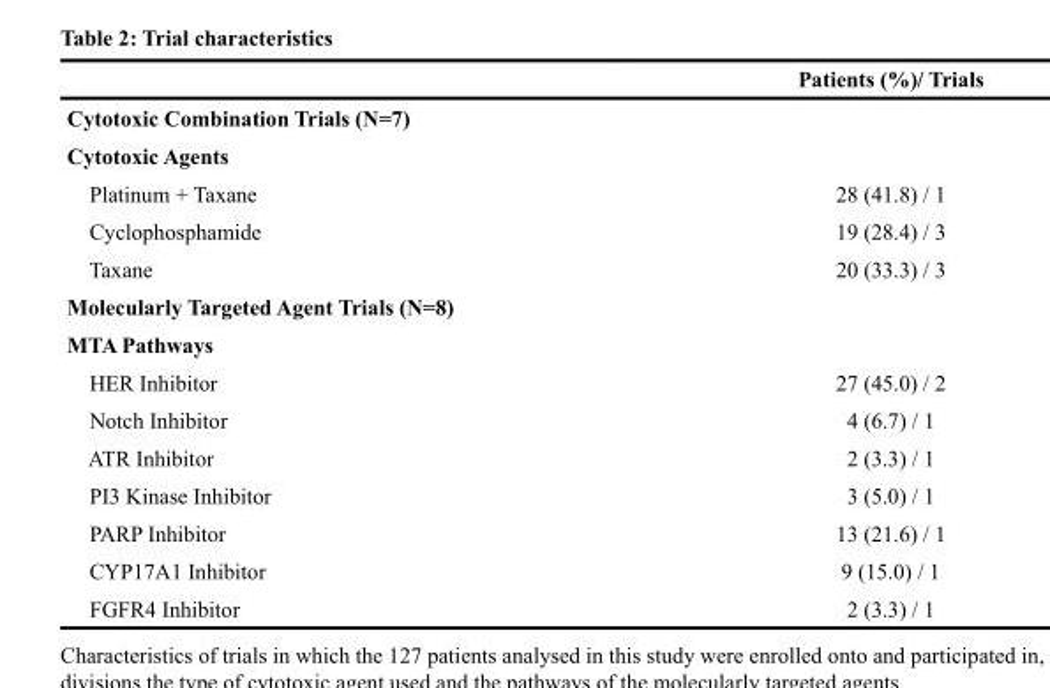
<table><thead><tr><td></td><td>Patients (%)/ Trials</td></tr></thead><tbody><tr><td colspan="2">Cytotoxic Combination Trials (N=7)</td></tr><tr><td colspan="2">Cytotoxic Agents</td></tr><tr><td>Platinum + Taxane</td><td>28 (41.8) / 1</td></tr><tr><td>Cyclophosphamide</td><td>19 (28.4) / 3</td></tr><tr><td>Taxane</td><td>20 (33.3) / 3</td></tr><tr><td colspan="2">Molecularly Targeted Agent Trials (N=8)</td></tr><tr><td colspan="2">MTA Pathways</td></tr><tr><td>HER Inhibitor</td><td>27 (45.0) / 2</td></tr><tr><td>Notch Inhibitor</td><td>4 (6.7) / 1</td></tr><tr><td>ATR Inhibitor</td><td>2 (3.3) / 1</td></tr><tr><td>PI3 Kinase Inhibitor</td><td>3 (5.0) / 1</td></tr><tr><td>PARP Inhibitor</td><td>13 (21.6) / 1</td></tr><tr><td>CYP17A1 Inhibitor</td><td>9 (15.0) / 1</td></tr><tr><td>FGFR4 Inhibitor</td><td>2 (3.3) / 1</td></tr></tbody></table>